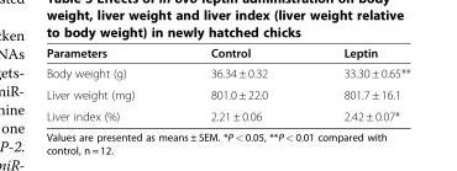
<table><thead><tr><td>Parameters</td><td>Control</td><td>Leptin</td></tr></thead><tbody><tr><td>Body weight (g)</td><td>36.34 ± 0.32</td><td>33.30 ± 0.65**</td></tr><tr><td>Liver weight (mg)</td><td>801.0 ± 22.0</td><td>801.7 ± 16.1</td></tr><tr><td>Liver index (%)</td><td>2.21 ± 0.06</td><td>2.42 ± 0.07*</td></tr></tbody></table>